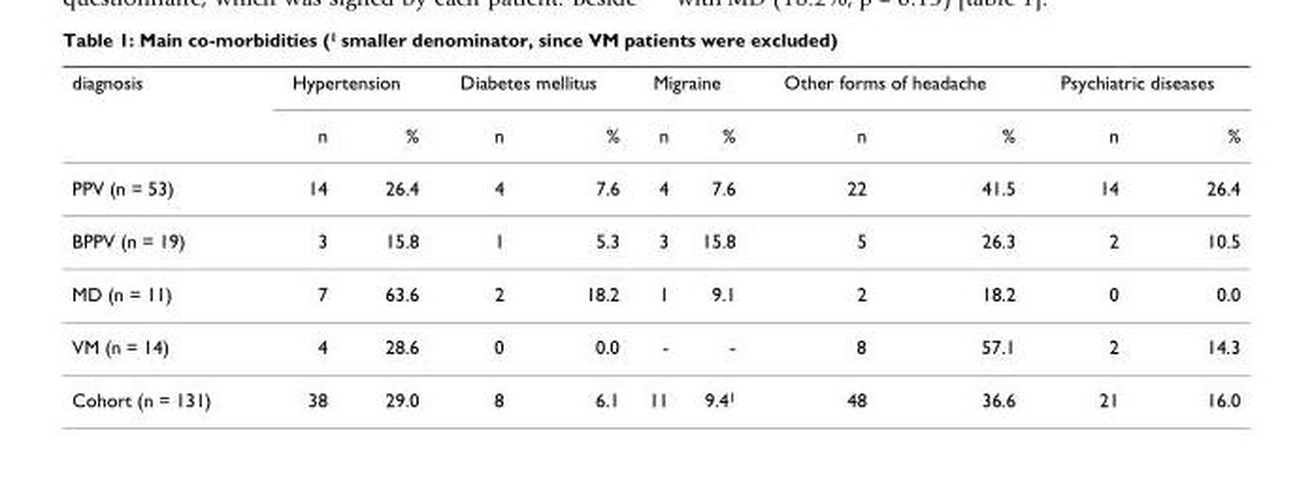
<table><thead><tr><td rowspan="2">diagnosis</td><td colspan="2">Hypertension</td><td colspan="2">Diabetes mellitus</td><td colspan="2">Migraine</td><td colspan="2">Other forms of headache</td><td colspan="2">Psychiatric diseases</td></tr><tr><td>n</td><td>%</td><td>n</td><td>%</td><td>n</td><td>%</td><td>n</td><td>%</td><td>n</td><td>%</td></tr></thead><tbody><tr><td>PPV (n = 53)</td><td>14</td><td>26.4</td><td>4</td><td>7.6</td><td>4</td><td>7.6</td><td>22</td><td>41.5</td><td>14</td><td>26.4</td></tr><tr><td>BPPV (n = 19)</td><td>3</td><td>15.8</td><td>1</td><td>5.3</td><td>3</td><td>15.8</td><td>5</td><td>26.3</td><td>2</td><td>10.5</td></tr><tr><td>MD (n = 11)</td><td>7</td><td>63.6</td><td>2</td><td>18.2</td><td>1</td><td>9.1</td><td>2</td><td>18.2</td><td>0</td><td>0.0</td></tr><tr><td>VM (n = 14)</td><td>4</td><td>28.6</td><td>0</td><td>0.0</td><td>-</td><td>-</td><td>8</td><td>57.1</td><td>2</td><td>14.3</td></tr><tr><td>Cohort (n = 131)</td><td>38</td><td>29.0</td><td>8</td><td>6.1</td><td>11</td><td>9.4<sup>1</sup></td><td>48</td><td>36.6</td><td>21</td><td>16.0</td></tr></tbody></table>